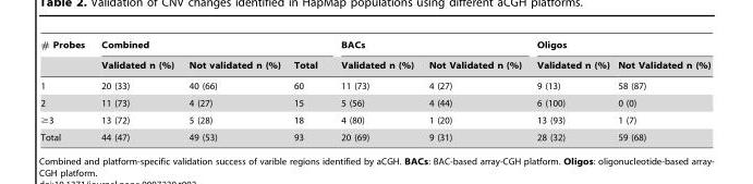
<table><thead><tr><td rowspan="2"># Probes</td><td colspan="3">Combined</td><td colspan="2">BACs</td><td colspan="2">Oligos</td></tr><tr><td>Validated n (%)</td><td>Not validated n (%)</td><td>Total</td><td>Validated n (%)</td><td>Not Validated n (%)</td><td>Validated n (%)</td><td>Not Validated n (%)</td></tr></thead><tbody><tr><td>1</td><td>20 (33)</td><td>40 (66)</td><td>60</td><td>11 (73)</td><td>4 (27)</td><td>9 (13)</td><td>58 (87)</td></tr><tr><td>2</td><td>11 (73)</td><td>4 (27)</td><td>15</td><td>5 (56)</td><td>4 (44)</td><td>6 (100)</td><td>0 (0)</td></tr><tr><td>≥3</td><td>13 (72)</td><td>5 (28)</td><td>18</td><td>4 (80)</td><td>1 (20)</td><td>13 (93)</td><td>1 (7)</td></tr><tr><td>Total</td><td>44 (47)</td><td>49 (53)</td><td>93</td><td>20 (69)</td><td>9 (31)</td><td>28 (32)</td><td>59 (68)</td></tr></tbody></table>